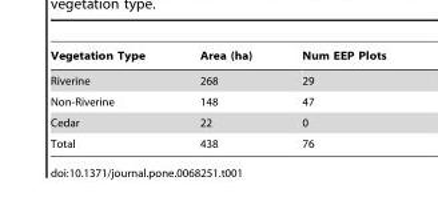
<table><thead><tr><td>Vegetation Type</td><td>Area (ha)</td><td>Num EEP Plots</td></tr></thead><tbody><tr><td>Riverine</td><td>268</td><td>29</td></tr><tr><td>Non-Riverine</td><td>148</td><td>47</td></tr><tr><td>Cedar</td><td>22</td><td>0</td></tr><tr><td>Total</td><td>438</td><td>76</td></tr></tbody></table>